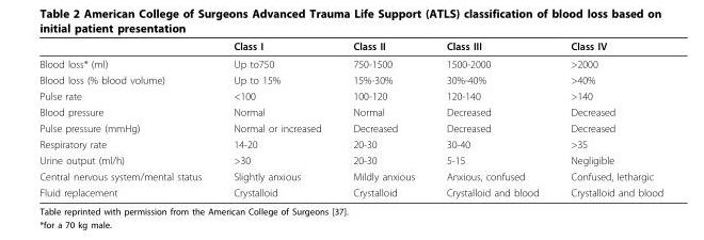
<table><thead><tr><td></td><td>Class I</td><td>Class II</td><td>Class III</td><td>Class IV</td></tr></thead><tbody><tr><td>Blood loss* (ml)</td><td>Up to750</td><td>750-1500</td><td>1500-2000</td><td>&gt;2000</td></tr><tr><td>Blood loss (% blood volume)</td><td>Up to 15%</td><td>15%-30%</td><td>30%-40%</td><td>&gt;40%</td></tr><tr><td>Pulse rate</td><td>&lt;100</td><td>100-120</td><td>120-140</td><td>&gt;140</td></tr><tr><td>Blood pressure</td><td>Normal</td><td>Normal</td><td>Decreased</td><td>Decreased</td></tr><tr><td>Pulse pressure (mmHg)</td><td>Normal or increased</td><td>Decreased</td><td>Decreased</td><td>Decreased</td></tr><tr><td>Respiratory rate</td><td>14-20</td><td>20-30</td><td>30-40</td><td>&gt;35</td></tr><tr><td>Urine output (ml/h)</td><td>&gt;30</td><td>20-30</td><td>5-15</td><td>Negligible</td></tr><tr><td>Central nervous system/mental status</td><td>Slightly anxious</td><td>Mildly anxious</td><td>Anxious, confused</td><td>Confused, lethargic</td></tr><tr><td>Fluid replacement</td><td>Crystalloid</td><td>Crystalloid</td><td>Crystalloid and blood</td><td>Crystalloid and blood</td></tr></tbody></table>